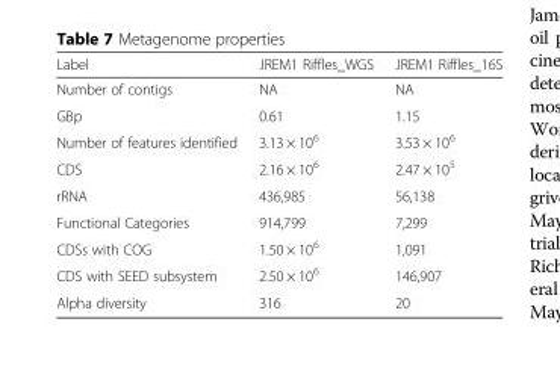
<table><thead><tr><td>Label</td><td>JREM1 Riffles_WGS</td><td>JREM1 Riffles_16S</td></tr></thead><tbody><tr><td>Number of contigs</td><td>NA</td><td>NA</td></tr><tr><td>GBp</td><td>0.61</td><td>1.15</td></tr><tr><td>Number of features identified</td><td>3.13 × 10<sup>6</sup></td><td>3.53 × 10<sup>6</sup></td></tr><tr><td>CDS</td><td>2.16 × 10<sup>6</sup></td><td>2.47 × 10<sup>5</sup></td></tr><tr><td>rRNA</td><td>436,985</td><td>56,138</td></tr><tr><td>Functional Categories</td><td>914,799</td><td>7,299</td></tr><tr><td>CDSs with COG</td><td>1.50 × 10<sup>6</sup></td><td>1,091</td></tr><tr><td>CDS with SEED subsystem</td><td>2.50 × 10<sup>6</sup></td><td>146,907</td></tr><tr><td>Alpha diversity</td><td>316</td><td>20</td></tr></tbody></table>